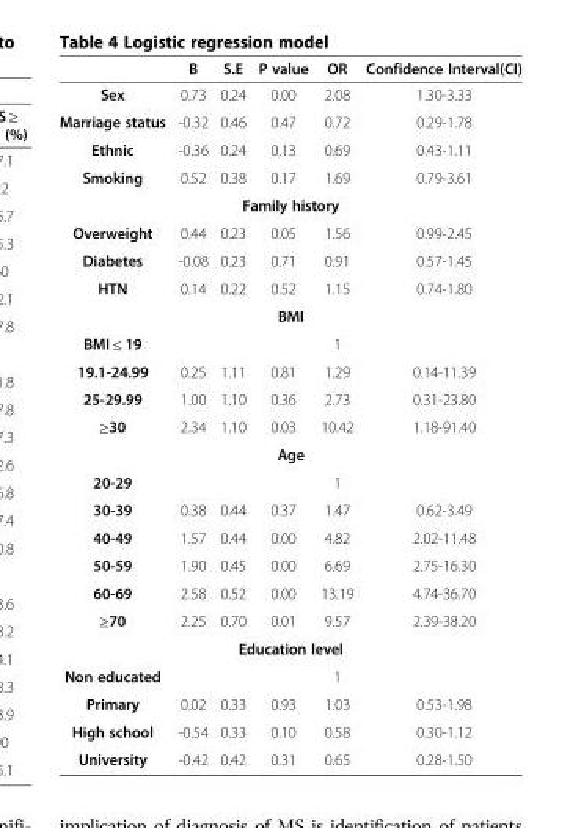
<table><thead><tr><td></td><td>B</td><td>S.E</td><td>P value</td><td>OR</td><td>Confidence Interval(CI)</td></tr></thead><tbody><tr><td>Sex</td><td>0.73</td><td>0.24</td><td>0.00</td><td>2.08</td><td>1.30-3.33</td></tr><tr><td>Marriage status</td><td>-0.32</td><td>0.46</td><td>0.47</td><td>0.72</td><td>0.29-1.78</td></tr><tr><td>Ethnic</td><td>-0.36</td><td>0.24</td><td>0.13</td><td>0.69</td><td>0.43-1.11</td></tr><tr><td>Smoking</td><td>0.52</td><td>0.38</td><td>0.17</td><td>1.69</td><td>0.79-3.61</td></tr><tr><td colspan="6">Family history</td></tr><tr><td>Overweight</td><td>0.44</td><td>0.23</td><td>0.05</td><td>1.56</td><td>0.99-2.45</td></tr><tr><td>Diabetes</td><td>-0.08</td><td>0.23</td><td>0.71</td><td>0.91</td><td>0.57-1.45</td></tr><tr><td>HTN</td><td>0.14</td><td>0.22</td><td>0.52</td><td>1.15</td><td>0.74-1.80</td></tr><tr><td colspan="6">BMI</td></tr><tr><td>BMI ≤ 19</td><td></td><td></td><td></td><td>1</td><td></td></tr><tr><td>19.1-24.99</td><td>0.25</td><td>1.11</td><td>0.81</td><td>1.29</td><td>0.14-11.39</td></tr><tr><td>25-29.99</td><td>1.00</td><td>1.10</td><td>0.36</td><td>2.73</td><td>0.31-23.80</td></tr><tr><td>≥30</td><td>2.34</td><td>1.10</td><td>0.03</td><td>10.42</td><td>1.18-91.40</td></tr><tr><td colspan="6">Age</td></tr><tr><td>20-29</td><td></td><td></td><td></td><td>1</td><td></td></tr><tr><td>30-39</td><td>0.38</td><td>0.44</td><td>0.37</td><td>1.47</td><td>0.62-3.49</td></tr><tr><td>40-49</td><td>1.57</td><td>0.44</td><td>0.00</td><td>4.82</td><td>2.02-11.48</td></tr><tr><td>50-59</td><td>1.90</td><td>0.45</td><td>0.00</td><td>6.69</td><td>2.75-16.30</td></tr><tr><td>60-69</td><td>2.58</td><td>0.52</td><td>0.00</td><td>13.19</td><td>4.74-36.70</td></tr><tr><td>≥70</td><td>2.25</td><td>0.70</td><td>0.01</td><td>9.57</td><td>2.39-38.20</td></tr><tr><td colspan="6">Education level</td></tr><tr><td>Non educated</td><td></td><td></td><td></td><td>1</td><td></td></tr><tr><td>Primary</td><td>0.02</td><td>0.33</td><td>0.93</td><td>1.03</td><td>0.53-1.98</td></tr><tr><td>High school</td><td>-0.54</td><td>0.33</td><td>0.10</td><td>0.58</td><td>0.30-1.12</td></tr><tr><td>University</td><td>-0.42</td><td>0.42</td><td>0.31</td><td>0.65</td><td>0.28-1.50</td></tr></tbody></table>